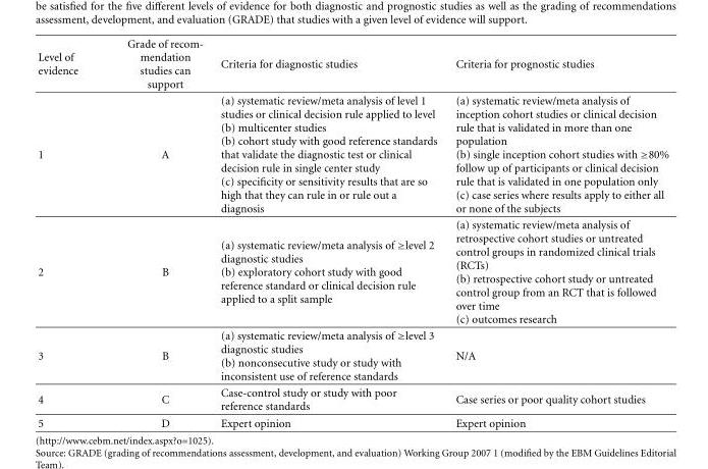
<table><thead><tr><td>Level of evidence</td><td>Grade of recom- mendation studies can support</td><td>Criteria for diagnostic studies</td><td>Criteria for prognostic studies</td></tr></thead><tbody><tr><td>1</td><td>A</td><td>(a) systematic review/meta analysis of level 1 studies or clinical decision rule applied to level (b) multicenter studies (b) cohort study with good reference standards that validate the diagnostic test or clinical decision rule in single center study (c) specificity or sensitivity results that are so high that they can rule in or rule out a diagnosis</td><td>(a) systematic review/meta analysis of inception cohort studies or clinical decision rule that is validated in more than one population (b) single inception cohort studies with ≥80% follow up of participants or clinical decision rule that is validated in one population only (c) case series where results apply to either all or none of the subjects</td></tr><tr><td>2</td><td>B</td><td>(a) systematic review/meta analysis of ≥level 2 diagnostic studies (b) exploratory cohort study with good reference standard or clinical decision rule applied to a split sample</td><td>(a) systematic review/meta analysis of retrospective cohort studies or untreated control groups in randomized clinical trials (RCTs) (b) retrospective cohort study or untreated control group from an RCT that is followed over time (c) outcomes research</td></tr><tr><td>3</td><td>B</td><td>(a) systematic review/meta analysis of ≥level 3 diagnostic studies (b) nonconsecutive study or study with inconsistent use of reference standards</td><td>N/A</td></tr><tr><td>4</td><td>C</td><td>Case-control study or study with poor reference standards</td><td>Case series or poor quality cohort studies</td></tr><tr><td>5</td><td>D</td><td>Expert opinion</td><td>Expert opinion</td></tr></tbody></table>